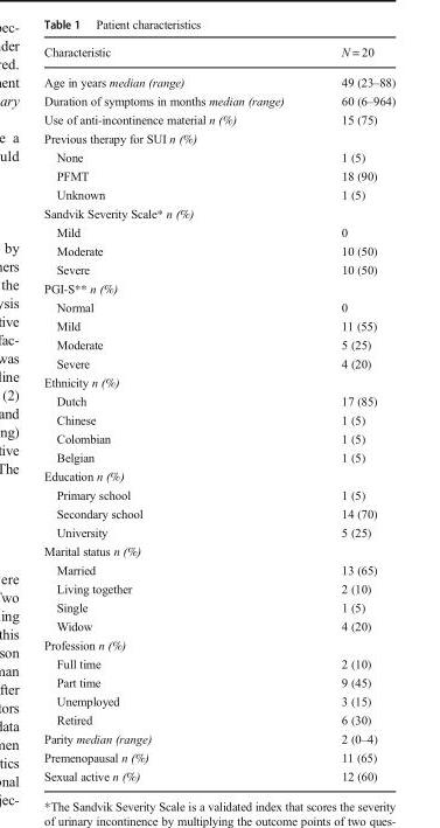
<table><thead><tr><td>Characteristic</td><td>N = 20</td></tr></thead><tbody><tr><td>Age in years median (range)</td><td>49 (23–88)</td></tr><tr><td>Duration of symptoms in months median (range)</td><td>60 (6–964)</td></tr><tr><td>Use of anti-incontinence material n (%)</td><td>15 (75)</td></tr><tr><td colspan="2">Previous therapy for SUI n (%)</td></tr><tr><td>None</td><td>1 (5)</td></tr><tr><td>PFMT</td><td>18 (90)</td></tr><tr><td>Unknown</td><td>1 (5)</td></tr><tr><td colspan="2">Sandvik Severity Scale* n (%)</td></tr><tr><td>Mild</td><td>0</td></tr><tr><td>Moderate</td><td>10 (50)</td></tr><tr><td>Severe</td><td>10 (50)</td></tr><tr><td colspan="2">PGI-S** n (%)</td></tr><tr><td>Normal</td><td>0</td></tr><tr><td>Mild</td><td>11 (55)</td></tr><tr><td>Moderate</td><td>5 (25)</td></tr><tr><td>Severe</td><td>4 (20)</td></tr><tr><td colspan="2">Ethnicity n (%)</td></tr><tr><td>Dutch</td><td>17 (85)</td></tr><tr><td>Chinese</td><td>1 (5)</td></tr><tr><td>Colombian</td><td>1 (5)</td></tr><tr><td>Belgian</td><td>1 (5)</td></tr><tr><td colspan="2">Education n (%)</td></tr><tr><td>Primary school</td><td>1 (5)</td></tr><tr><td>Secondary school</td><td>14 (70)</td></tr><tr><td>University</td><td>5 (25)</td></tr><tr><td colspan="2">Marital status n (%)</td></tr><tr><td>Married</td><td>13 (65)</td></tr><tr><td>Living together</td><td>2 (10)</td></tr><tr><td>Single</td><td>1 (5)</td></tr><tr><td>Widow</td><td>4 (20)</td></tr><tr><td colspan="2">Profession n (%)</td></tr><tr><td>Full time</td><td>2 (10)</td></tr><tr><td>Part time</td><td>9 (45)</td></tr><tr><td>Unemployed</td><td>3 (15)</td></tr><tr><td>Retired</td><td>6 (30)</td></tr><tr><td>Parity median (range)</td><td>2 (0–4)</td></tr><tr><td>Premenopausal n (%)</td><td>11 (65)</td></tr><tr><td>Sexual active n (%)</td><td>12 (60)</td></tr></tbody></table>